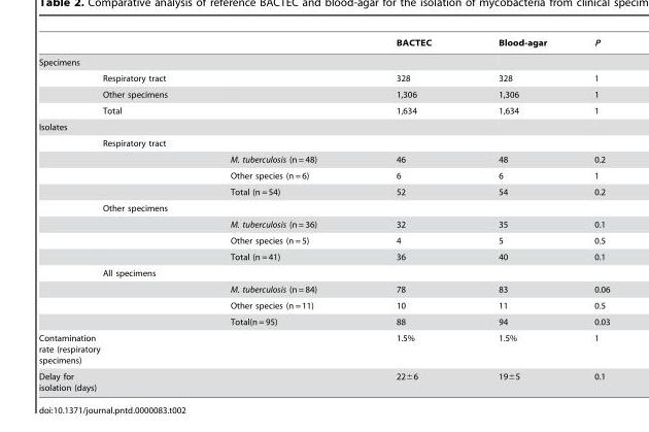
<table><thead><tr><td></td><td></td><td></td><td>BACTEC</td><td>Blood-agar</td><td>P</td></tr></thead><tbody><tr><td colspan="6">Specimens</td></tr><tr><td></td><td>Respiratory tract</td><td></td><td>328</td><td>328</td><td>1</td></tr><tr><td></td><td>Other specimens</td><td></td><td>1,306</td><td>1,306</td><td>1</td></tr><tr><td></td><td>Total</td><td></td><td>1,634</td><td>1,634</td><td>1</td></tr><tr><td colspan="6">Isolates</td></tr><tr><td></td><td>Respiratory tract</td><td></td><td></td><td></td><td></td></tr><tr><td></td><td></td><td>M. tuberculosis (n = 48)</td><td>46</td><td>48</td><td>0.2</td></tr><tr><td></td><td></td><td>Other species (n = 6)</td><td>6</td><td>6</td><td>1</td></tr><tr><td></td><td></td><td>Total (n = 54)</td><td>52</td><td>54</td><td>0.2</td></tr><tr><td></td><td>Other specimens</td><td></td><td></td><td></td><td></td></tr><tr><td></td><td></td><td>M. tuberculosis (n = 36)</td><td>32</td><td>35</td><td>0.1</td></tr><tr><td></td><td></td><td>Other species (n = 5)</td><td>4</td><td>5</td><td>0.5</td></tr><tr><td></td><td></td><td>Total (n = 41)</td><td>36</td><td>40</td><td>0.1</td></tr><tr><td></td><td>All specimens</td><td></td><td></td><td></td><td></td></tr><tr><td></td><td></td><td>M. tuberculosis (n = 84)</td><td>78</td><td>83</td><td>0.06</td></tr><tr><td></td><td></td><td>Other species (n = 11)</td><td>10</td><td>11</td><td>0.5</td></tr><tr><td></td><td></td><td>Total(n = 95)</td><td>88</td><td>94</td><td>0.03</td></tr><tr><td>Contamination rate (respiratory specimens)</td><td></td><td></td><td>1.5%</td><td>1.5%</td><td>1</td></tr><tr><td>Delay for isolation (days)</td><td></td><td></td><td>22±6</td><td>19±5</td><td>0.1</td></tr></tbody></table>